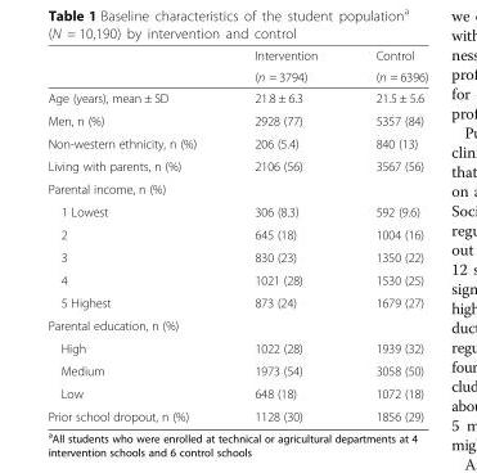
<table><thead><tr><td rowspan="2"></td><td rowspan="2">Intervention (n = 3794)</td><td rowspan="2">Control (n = 6396)</td></tr><tr></tr></thead><tbody><tr><td>Age (years), mean ± SD</td><td>21.8 ± 6.3</td><td>21.5 ± 5.6</td></tr><tr><td>Men, n (%)</td><td>2928 (77)</td><td>5357 (84)</td></tr><tr><td>Non-western ethnicity, n (%)</td><td>206 (5.4)</td><td>840 (13)</td></tr><tr><td>Living with parents, n (%)</td><td>2106 (56)</td><td>3567 (56)</td></tr><tr><td colspan="3">Parental income, n (%)</td></tr><tr><td>1 Lowest</td><td>306 (8.3)</td><td>592 (9.6)</td></tr><tr><td>2</td><td>645 (18)</td><td>1004 (16)</td></tr><tr><td>3</td><td>830 (23)</td><td>1350 (22)</td></tr><tr><td>4</td><td>1021 (28)</td><td>1530 (25)</td></tr><tr><td>5 Highest</td><td>873 (24)</td><td>1679 (27)</td></tr><tr><td colspan="3">Parental education, n (%)</td></tr><tr><td>High</td><td>1022 (28)</td><td>1939 (32)</td></tr><tr><td>Medium</td><td>1973 (54)</td><td>3058 (50)</td></tr><tr><td>Low</td><td>648 (18)</td><td>1072 (18)</td></tr><tr><td>Prior school dropout, n (%)</td><td>1128 (30)</td><td>1856 (29)</td></tr></tbody></table>